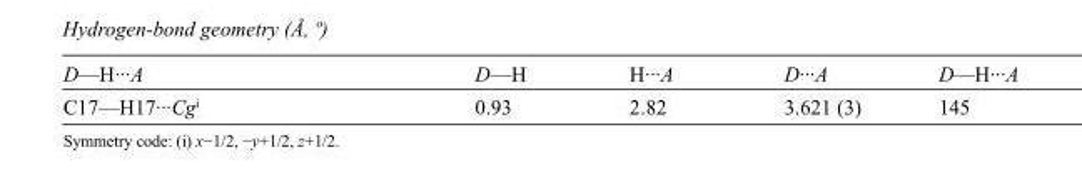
<table><tbody><tr><td>D—H···A</td><td>D—H</td><td>H···A</td><td>D···A</td><td>D—H···A</td></tr><tr><td>C17—H17···Cg<sup>i</sup></td><td>0.93</td><td>2.82</td><td>3.621 (3)</td><td>145</td></tr></tbody></table>